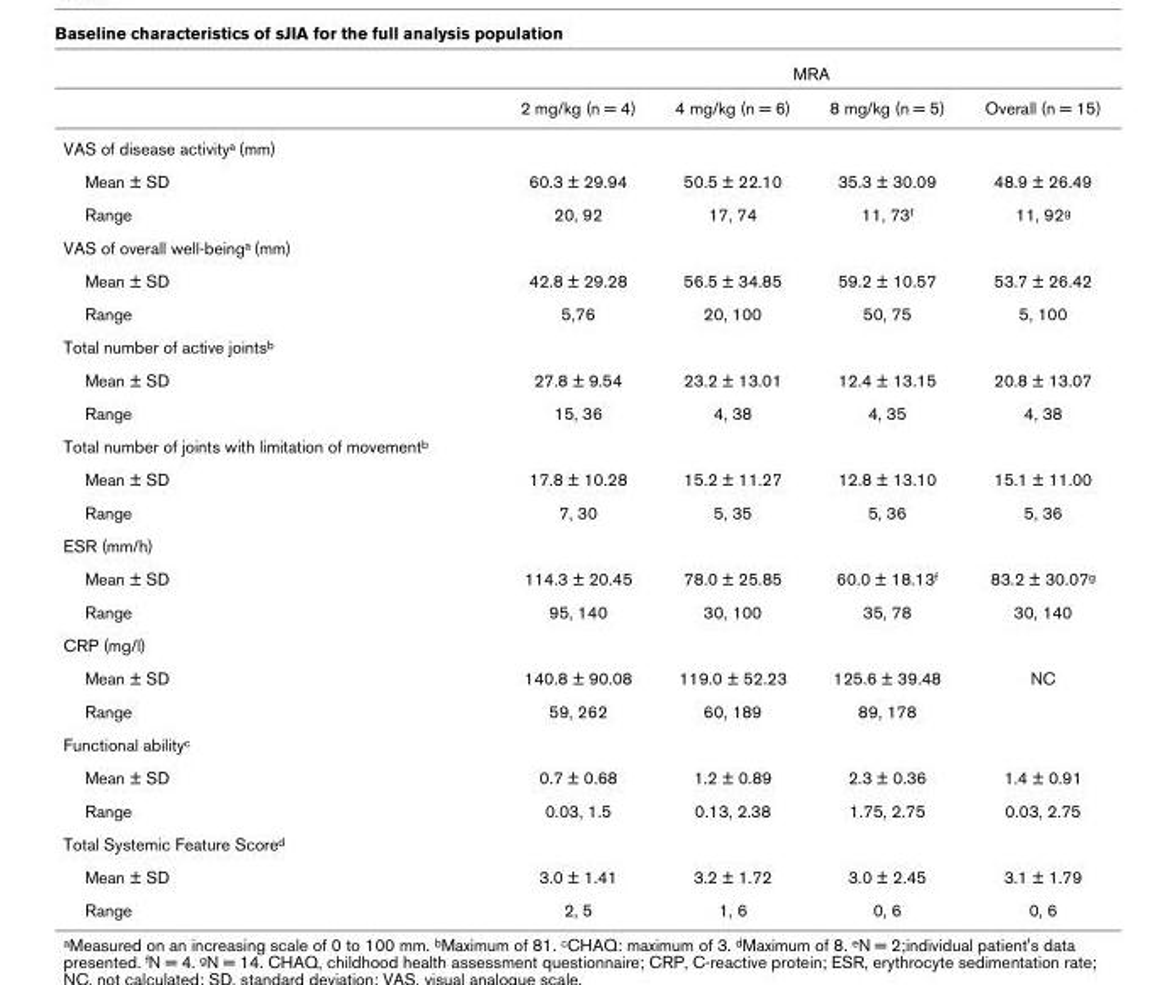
<table><thead><tr><td rowspan="2"></td><td colspan="4">MRA</td></tr><tr><td>2 mg/kg (n = 4)</td><td>4 mg/kg (n = 6)</td><td>8 mg/kg (n = 5)</td><td>Overall (n = 15)</td></tr></thead><tbody><tr><td colspan="5">VAS of disease activitya (mm)</td></tr><tr><td>Mean ± SD</td><td>60.3 ± 29.94</td><td>50.5 ± 22.10</td><td>35.3 ± 30.09</td><td>48.9 ± 26.49</td></tr><tr><td>Range</td><td>20, 92</td><td>17, 74</td><td>11, 73f</td><td>11, 92g</td></tr><tr><td colspan="5">VAS of overall well-beinga (mm)</td></tr><tr><td>Mean ± SD</td><td>42.8 ± 29.28</td><td>56.5 ± 34.85</td><td>59.2 ± 10.57</td><td>53.7 ± 26.42</td></tr><tr><td>Range</td><td>5,76</td><td>20, 100</td><td>50, 75</td><td>5, 100</td></tr><tr><td colspan="5">Total number of active jointsb</td></tr><tr><td>Mean ± SD</td><td>27.8 ± 9.54</td><td>23.2 ± 13.01</td><td>12.4 ± 13.15</td><td>20.8 ± 13.07</td></tr><tr><td>Range</td><td>15, 36</td><td>4, 38</td><td>4, 35</td><td>4, 38</td></tr><tr><td colspan="5">Total number of joints with limitation of movementb</td></tr><tr><td>Mean ± SD</td><td>17.8 ± 10.28</td><td>15.2 ± 11.27</td><td>12.8 ± 13.10</td><td>15.1 ± 11.00</td></tr><tr><td>Range</td><td>7, 30</td><td>5, 35</td><td>5, 36</td><td>5, 36</td></tr><tr><td colspan="5">ESR (mm/h)</td></tr><tr><td>Mean ± SD</td><td>114.3 ± 20.45</td><td>78.0 ± 25.85</td><td>60.0 ± 18.13f</td><td>83.2 ± 30.07g</td></tr><tr><td>Range</td><td>95, 140</td><td>30, 100</td><td>35, 78</td><td>30, 140</td></tr><tr><td colspan="5">CRP (mg/l)</td></tr><tr><td>Mean ± SD</td><td>140.8 ± 90.08</td><td>119.0 ± 52.23</td><td>125.6 ± 39.48</td><td>NC</td></tr><tr><td>Range</td><td>59, 262</td><td>60, 189</td><td>89, 178</td><td></td></tr><tr><td colspan="5">Functional abilityc</td></tr><tr><td>Mean ± SD</td><td>0.7 ± 0.68</td><td>1.2 ± 0.89</td><td>2.3 ± 0.36</td><td>1.4 ± 0.91</td></tr><tr><td>Range</td><td>0.03, 1.5</td><td>0.13, 2.38</td><td>1.75, 2.75</td><td>0.03, 2.75</td></tr><tr><td colspan="5">Total Systemic Feature Scored</td></tr><tr><td>Mean ± SD</td><td>3.0 ± 1.41</td><td>3.2 ± 1.72</td><td>3.0 ± 2.45</td><td>3.1 ± 1.79</td></tr><tr><td>Range</td><td>2, 5</td><td>1, 6</td><td>0, 6</td><td>0, 6</td></tr></tbody></table>